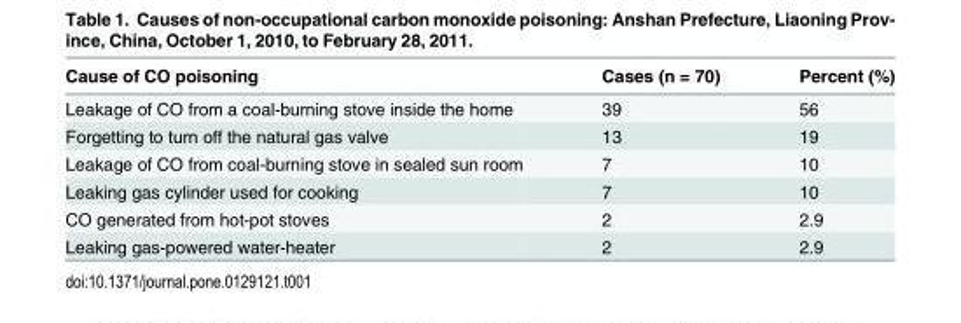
<table><thead><tr><td>Cause of CO poisoning</td><td>Cases (n = 70)</td><td>Percent (%)</td></tr></thead><tbody><tr><td>Leakage of CO from a coal-burning stove inside the home</td><td>39</td><td>56</td></tr><tr><td>Forgetting to turn off the natural gas valve</td><td>13</td><td>19</td></tr><tr><td>Leakage of CO from coal-burning stove in sealed sun room</td><td>7</td><td>10</td></tr><tr><td>Leaking gas cylinder used for cooking</td><td>7</td><td>10</td></tr><tr><td>CO generated from hot-pot stoves</td><td>2</td><td>2.9</td></tr><tr><td>Leaking gas-powered water-heater</td><td>2</td><td>2.9</td></tr></tbody></table>